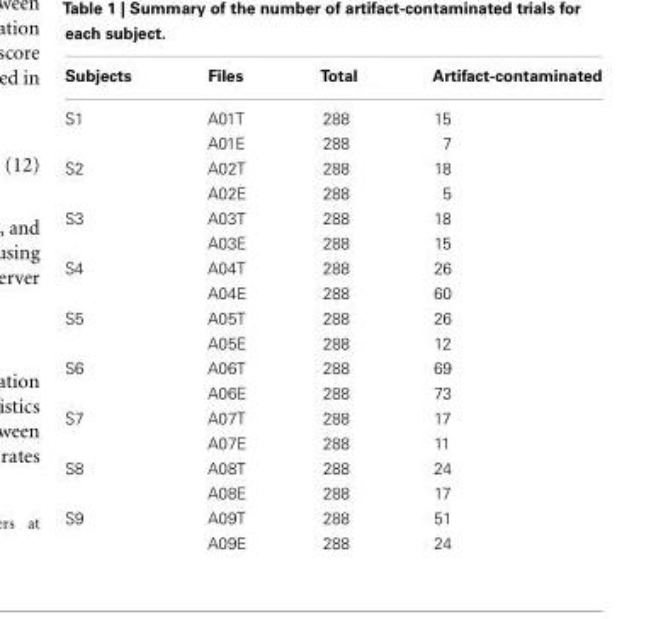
<table><thead><tr><td>Subjects</td><td>Files</td><td>Total</td><td>Artifact-contaminated</td></tr></thead><tbody><tr><td rowspan="2">S1</td><td>A01T</td><td>288</td><td>15</td></tr><tr><td>A01E</td><td>288</td><td>7</td></tr><tr><td rowspan="2">S2</td><td>A02T</td><td>288</td><td>18</td></tr><tr><td>A02E</td><td>288</td><td>5</td></tr><tr><td rowspan="2">S3</td><td>A03T</td><td>288</td><td>18</td></tr><tr><td>A03E</td><td>288</td><td>15</td></tr><tr><td rowspan="2">S4</td><td>A04T</td><td>288</td><td>26</td></tr><tr><td>A04E</td><td>288</td><td>60</td></tr><tr><td rowspan="2">S5</td><td>A05T</td><td>288</td><td>26</td></tr><tr><td>A05E</td><td>288</td><td>12</td></tr><tr><td rowspan="2">S6</td><td>A06T</td><td>288</td><td>69</td></tr><tr><td>A06E</td><td>288</td><td>73</td></tr><tr><td rowspan="2">S7</td><td>A07T</td><td>288</td><td>17</td></tr><tr><td>A07E</td><td>288</td><td>11</td></tr><tr><td rowspan="2">S8</td><td>A08T</td><td>288</td><td>24</td></tr><tr><td>A08E</td><td>288</td><td>17</td></tr><tr><td rowspan="2">S9</td><td>A09T</td><td>288</td><td>51</td></tr><tr><td>A09E</td><td>288</td><td>24</td></tr></tbody></table>